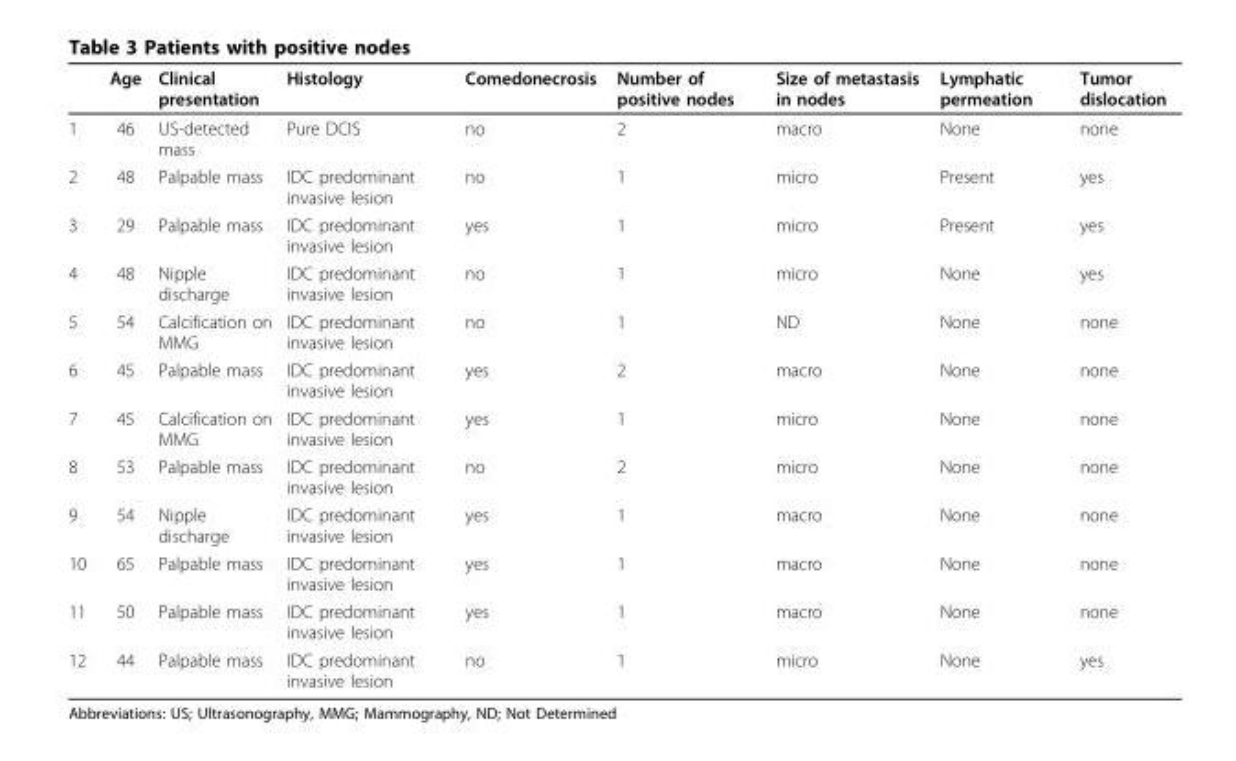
<table><thead><tr><td></td><td>Age</td><td>Clinical presentation</td><td>Histology</td><td>Comedonecrosis</td><td>Number of positive nodes</td><td>Size of metastasis in nodes</td><td>Lymphatic permeation</td><td>Tumor dislocation</td></tr></thead><tbody><tr><td>1</td><td>46</td><td>US-detected mass</td><td>Pure DCIS</td><td>no</td><td>2</td><td>macro</td><td>None</td><td>none</td></tr><tr><td>2</td><td>48</td><td>Palpable mass</td><td>IDC predominant invasive lesion</td><td>no</td><td>1</td><td>micro</td><td>Present</td><td>yes</td></tr><tr><td>3</td><td>29</td><td>Palpable mass</td><td>IDC predominant invasive lesion</td><td>yes</td><td>1</td><td>micro</td><td>Present</td><td>yes</td></tr><tr><td>4</td><td>48</td><td>Nipple discharge</td><td>IDC predominant invasive lesion</td><td>no</td><td>1</td><td>micro</td><td>None</td><td>yes</td></tr><tr><td>5</td><td>54</td><td>Calcification on MMG</td><td>IDC predominant invasive lesion</td><td>no</td><td>1</td><td>ND</td><td>None</td><td>none</td></tr><tr><td>6</td><td>45</td><td>Palpable mass</td><td>IDC predominant invasive lesion</td><td>yes</td><td>2</td><td>macro</td><td>None</td><td>none</td></tr><tr><td>7</td><td>45</td><td>Calcification on MMG</td><td>IDC predominant invasive lesion</td><td>yes</td><td>1</td><td>micro</td><td>None</td><td>none</td></tr><tr><td>8</td><td>53</td><td>Palpable mass</td><td>IDC predominant invasive lesion</td><td>no</td><td>2</td><td>micro</td><td>None</td><td>none</td></tr><tr><td>9</td><td>54</td><td>Nipple discharge</td><td>IDC predominant invasive lesion</td><td>yes</td><td>1</td><td>macro</td><td>None</td><td>none</td></tr><tr><td>10</td><td>65</td><td>Palpable mass</td><td>IDC predominant invasive lesion</td><td>yes</td><td>1</td><td>macro</td><td>None</td><td>none</td></tr><tr><td>11</td><td>50</td><td>Palpable mass</td><td>IDC predominant invasive lesion</td><td>yes</td><td>1</td><td>macro</td><td>None</td><td>none</td></tr><tr><td>12</td><td>44</td><td>Palpable mass</td><td>IDC predominant invasive lesion</td><td>no</td><td>1</td><td>micro</td><td>None</td><td>yes</td></tr></tbody></table>